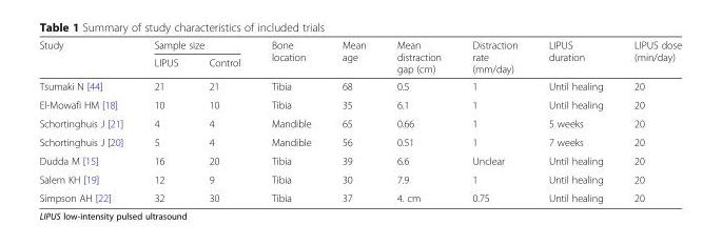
<table><thead><tr><td rowspan="2">Study</td><td colspan="2">Sample size</td><td rowspan="2">Bone location</td><td rowspan="2">Mean age</td><td rowspan="2">Mean distraction gap (cm)</td><td rowspan="2">Distraction rate (mm/day)</td><td rowspan="2">LIPUS duration</td><td rowspan="2">LIPUS dose (min/day)</td></tr><tr><td>LIPUS</td><td>Control</td></tr></thead><tbody><tr><td>Tsumaki N [44]</td><td>21</td><td>21</td><td>Tibia</td><td>68</td><td>0.5</td><td>1</td><td>Until healing</td><td>20</td></tr><tr><td>El-Mowafi HM [18]</td><td>10</td><td>10</td><td>Tibia</td><td>35</td><td>6.1</td><td>1</td><td>Until healing</td><td>20</td></tr><tr><td>Schortinghuis J [21]</td><td>4</td><td>4</td><td>Mandible</td><td>65</td><td>0.66</td><td>1</td><td>5 weeks</td><td>20</td></tr><tr><td>Schortinghuis J [20]</td><td>5</td><td>4</td><td>Mandible</td><td>56</td><td>0.51</td><td>1</td><td>7 weeks</td><td>20</td></tr><tr><td>Dudda M [15]</td><td>16</td><td>20</td><td>Tibia</td><td>39</td><td>6.6</td><td>Unclear</td><td>Until healing</td><td>20</td></tr><tr><td>Salem KH [19]</td><td>12</td><td>9</td><td>Tibia</td><td>30</td><td>7.9</td><td>1</td><td>Until healing</td><td>20</td></tr><tr><td>Simpson AH [22]</td><td>32</td><td>30</td><td>Tibia</td><td>37</td><td>4. cm</td><td>0.75</td><td>Until healing</td><td>20</td></tr></tbody></table>